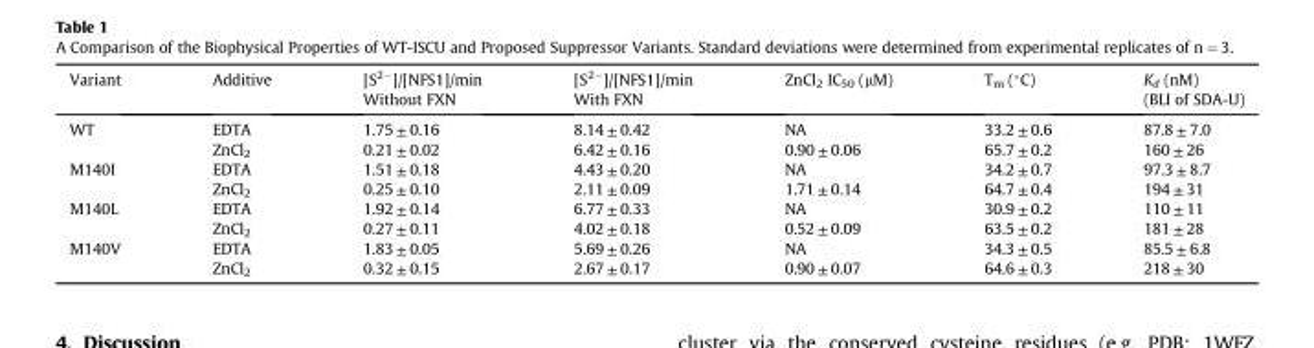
<table><thead><tr><td>Variant</td><td>Additive</td><td>[S<sup>2−</sup>]/[NFS1]/min Without FXN</td><td>[S<sup>2−</sup>]/[NFS1]/min With FXN</td><td>ZnCl<sub>2</sub> IC<sub>50</sub> (μM)</td><td>T<sub>m</sub> (°C)</td><td>K<sub>d</sub> (nM) (BLI of SDA-U)</td></tr></thead><tbody><tr><td rowspan="2">WT</td><td>EDTA</td><td>1.75 ± 0.16</td><td>8.14 ± 0.42</td><td>NA</td><td>33.2 ± 0.6</td><td>87.8 ± 7.0</td></tr><tr><td>ZnCl<sub>2</sub></td><td>0.21 ± 0.02</td><td>6.42 ± 0.16</td><td>0.90 ± 0.06</td><td>65.7 ± 0.2</td><td>160 ± 26</td></tr><tr><td rowspan="2">M140I</td><td>EDTA</td><td>1.51 ± 0.18</td><td>4.43 ± 0.20</td><td>NA</td><td>34.2 ± 0.7</td><td>97.3 ± 8.7</td></tr><tr><td>ZnCl<sub>2</sub></td><td>0.25 ± 0.10</td><td>2.11 ± 0.09</td><td>1.71 ± 0.14</td><td>64.7 ± 0.4</td><td>194 ± 31</td></tr><tr><td rowspan="2">M140L</td><td>EDTA</td><td>1.92 ± 0.14</td><td>6.77 ± 0.33</td><td>NA</td><td>30.9 ± 0.2</td><td>110 ± 11</td></tr><tr><td>ZnCl<sub>2</sub></td><td>0.27 ± 0.11</td><td>4.02 ± 0.18</td><td>0.52 ± 0.09</td><td>63.5 ± 0.2</td><td>181 ± 28</td></tr><tr><td rowspan="2">M140V</td><td>EDTA</td><td>1.83 ± 0.05</td><td>5.69 ± 0.26</td><td>NA</td><td>34.3 ± 0.5</td><td>85.5 ± 6.8</td></tr><tr><td>ZnCl<sub>2</sub></td><td>0.32 ± 0.15</td><td>2.67 ± 0.17</td><td>0.90 ± 0.07</td><td>64.6 ± 0.3</td><td>218 ± 30</td></tr></tbody></table>